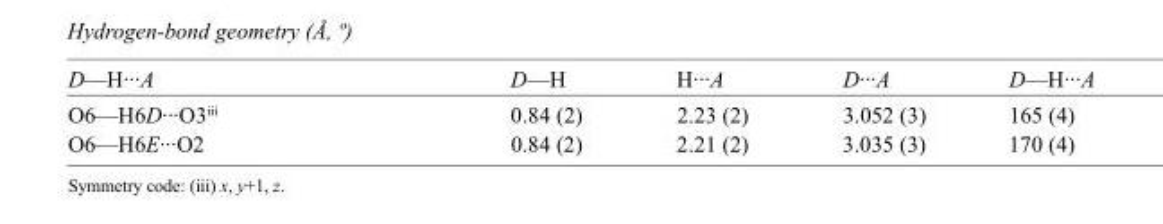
<table><tbody><tr><td>D—H···A</td><td>D—H</td><td>H···A</td><td>D···A</td><td>D—H···A</td></tr><tr><td>O6—H6D···O3<sup>iii</sup></td><td>0.84 (2)</td><td>2.23 (2)</td><td>3.052 (3)</td><td>165 (4)</td></tr><tr><td>O6—H6E···O2</td><td>0.84 (2)</td><td>2.21 (2)</td><td>3.035 (3)</td><td>170 (4)</td></tr></tbody></table>